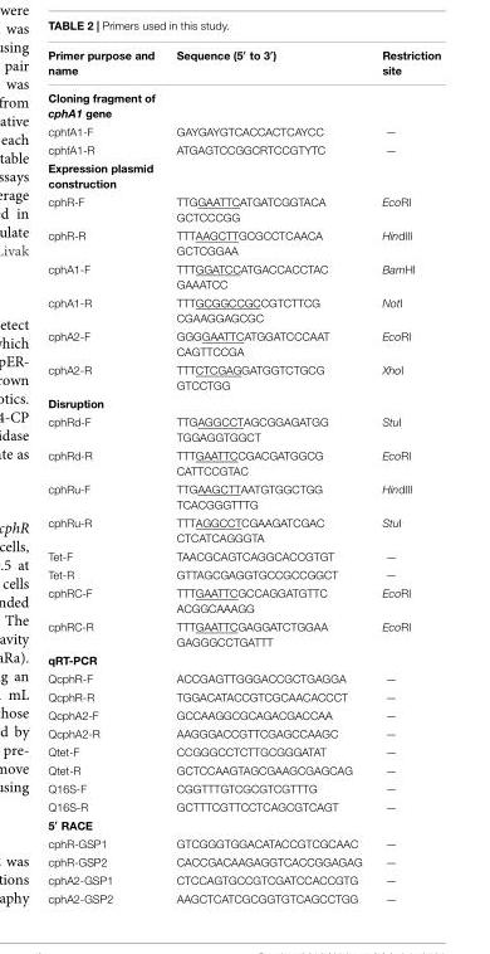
<table><thead><tr><td>Primer purpose and name</td><td>Sequence (5′ to 3′)</td><td>Restriction site</td></tr></thead><tbody><tr><td colspan="3">Cloning fragment of cphA1 gene</td></tr><tr><td>cphfA1-F</td><td>GAYGAYGTCACCACTCAYCC</td><td>—</td></tr><tr><td>cphfA1-R</td><td>ATGAGTCCGGCRTCCGTYTC</td><td>—</td></tr><tr><td colspan="3">Expression plasmid construction</td></tr><tr><td>cphR-F</td><td>TTGGAATTCATGATCGGTACA GCTCCCGG</td><td>EcoRI</td></tr><tr><td>cphR-R</td><td>TTTAAGCTTGCGCCTCAACA GCTCGGAA</td><td>HindIII</td></tr><tr><td>cphA1-F</td><td>TTTGGATCCATGACCACCTAC GAAATCC</td><td>BamHI</td></tr><tr><td>cphA1-R</td><td>TTTGCGGCCGCCGTCTTCG CGAAGGAGCGC</td><td>NotI</td></tr><tr><td>cphA2-F</td><td>GGGGAATTCATGGATCCCAAT CAGTTCCGA</td><td>EcoRI</td></tr><tr><td>cphA2-R</td><td>TTTCTCGAGGATGGTCTGCG GTCCTGG</td><td>XhoI</td></tr><tr><td colspan="3">Disruption</td></tr><tr><td>cphRd-F</td><td>TTGAGGCCTAGCGGAGATGG TGGAGGTGGCT</td><td>StuI</td></tr><tr><td>cphRd-R</td><td>TTTGAATTCCGACGATGGCG CATTCCGTAC</td><td>EcoRI</td></tr><tr><td>cphRu-F</td><td>TTGAAGCTTAATGTGGCTGG TCACGGGTTTG</td><td>HindIII</td></tr><tr><td>cphRu-R</td><td>TTTAGGCCTCGAAGATCGAC CTCATCAGGGTA</td><td>StuI</td></tr><tr><td>Tet-F</td><td>TAACGCAGTCAGGCACCGTGT</td><td>—</td></tr><tr><td>Tet-R</td><td>GTTAGCGAGGTGCCGCCGGCT</td><td>—</td></tr><tr><td>cphRC-F</td><td>TTTGAATTCGCCAGGATGTTC ACGGCAAAGG</td><td>EcoRI</td></tr><tr><td>cphRC-R</td><td>TTTGAATTCGAGGATCTGGAA GAGGGCCTGATTT</td><td>EcoRI</td></tr><tr><td colspan="3">qRT-PCR</td></tr><tr><td>QcphR-F</td><td>ACCGAGTTGGGACCGCTGAGGA</td><td>—</td></tr><tr><td>QcphR-R</td><td>TGGACATACCGTCGCAACACCCT</td><td>—</td></tr><tr><td>QcphA2-F</td><td>GCCAAGGCGCAGACGACCAA</td><td>—</td></tr><tr><td>QcphA2-R</td><td>AAGGGACCGTTCGAGCCAAGC</td><td>—</td></tr><tr><td>Qtet-F</td><td>CCGGGCCTCTTGCGGGATAT</td><td>—</td></tr><tr><td>Qtet-R</td><td>GCTCCAAGTAGCGAAGCGAGCAG</td><td>—</td></tr><tr><td>Q16S-F</td><td>CGGTTTGTCGCGTCGTTTG</td><td>—</td></tr><tr><td>Q16S-R</td><td>GCTTTCGTTCCTCAGCGTCAGT</td><td>—</td></tr><tr><td colspan="3">5′ RACE</td></tr><tr><td>cphR-GSP1</td><td>GTCGGGTGGACATACCGTCGCAAC</td><td>—</td></tr><tr><td>cphR-GSP2</td><td>CACCGACAAGAGGTCACCGGAGAG</td><td>—</td></tr><tr><td>cphA2-GSP1</td><td>CTCCAGTGCCGTCGATCCACCGTG</td><td>—</td></tr><tr><td>cphA2-GSP2</td><td>AAGCTCATCGCGGTGTCAGCCTGG</td><td>—</td></tr></tbody></table>